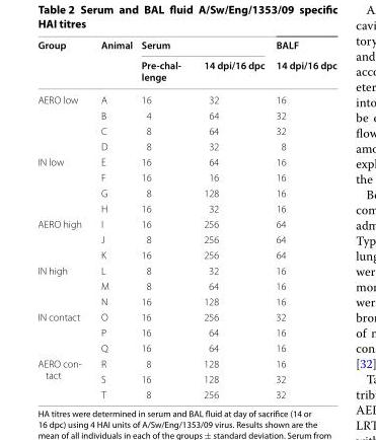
<table><thead><tr><td rowspan="2">Group</td><td rowspan="2">Animal</td><td colspan="2">Serum</td><td rowspan="2">BALF 14 dpi/16 dpc</td></tr><tr><td>Pre‑chal‑ lenge</td><td>14 dpi/16 dpc</td></tr></thead><tbody><tr><td rowspan="4">AERO low</td><td>A</td><td>16</td><td>32</td><td>16</td></tr><tr><td>B</td><td>4</td><td>64</td><td>32</td></tr><tr><td>C</td><td>8</td><td>64</td><td>32</td></tr><tr><td>D</td><td>8</td><td>32</td><td>8</td></tr><tr><td rowspan="4">IN low</td><td>E</td><td>16</td><td>64</td><td>16</td></tr><tr><td>F</td><td>16</td><td>16</td><td>16</td></tr><tr><td>G</td><td>8</td><td>128</td><td>16</td></tr><tr><td>H</td><td>16</td><td>32</td><td>16</td></tr><tr><td rowspan="3">AERO high</td><td>I</td><td>16</td><td>256</td><td>64</td></tr><tr><td>J</td><td>8</td><td>256</td><td>64</td></tr><tr><td>K</td><td>16</td><td>256</td><td>64</td></tr><tr><td rowspan="3">IN high</td><td>L</td><td>8</td><td>32</td><td>16</td></tr><tr><td>M</td><td>8</td><td>64</td><td>16</td></tr><tr><td>N</td><td>16</td><td>128</td><td>16</td></tr><tr><td rowspan="3">IN contact</td><td>O</td><td>16</td><td>256</td><td>32</td></tr><tr><td>P</td><td>16</td><td>64</td><td>16</td></tr><tr><td>Q</td><td>16</td><td>64</td><td>16</td></tr><tr><td rowspan="3">AERO con‑ tact</td><td>R</td><td>8</td><td>128</td><td>16</td></tr><tr><td>S</td><td>16</td><td>128</td><td>32</td></tr><tr><td>T</td><td>8</td><td>256</td><td>32</td></tr></tbody></table>